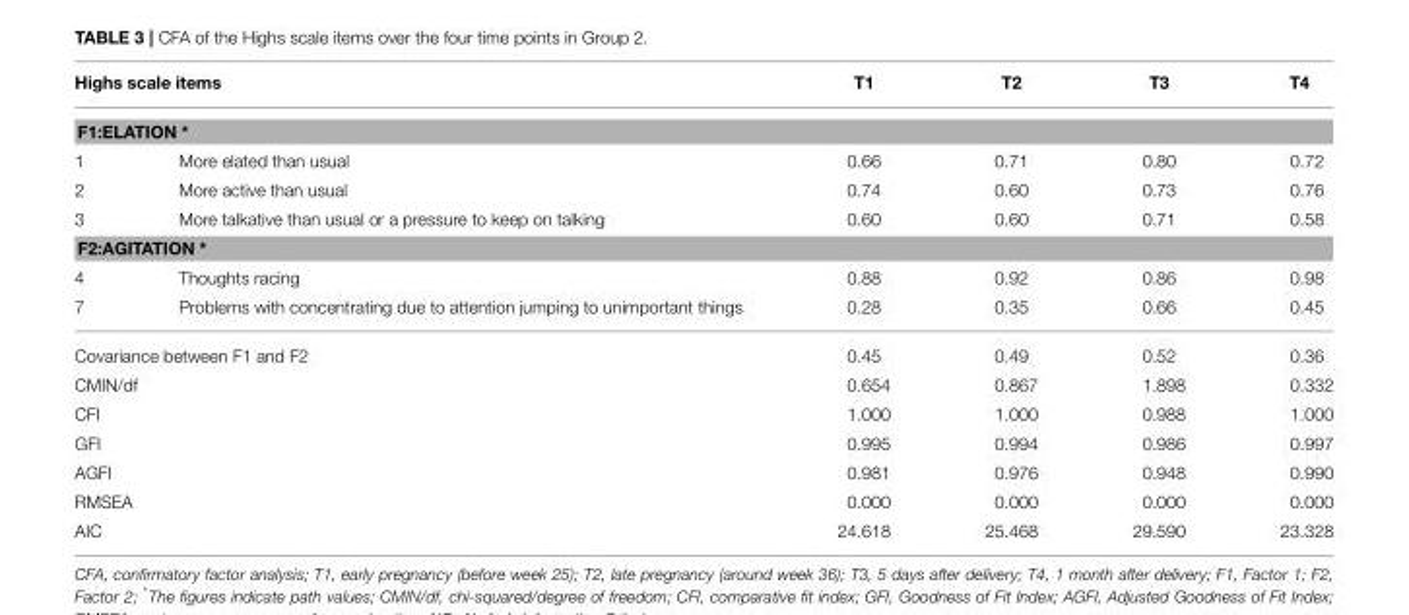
<table><thead><tr><td colspan="2">Highs scale items</td><td>T1</td><td>T2</td><td>T3</td><td>T4</td></tr><tr><td colspan="6">F1:ELATION *</td></tr><tr><td>1</td><td>More elated than usual</td><td>0.66</td><td>0.71</td><td>0.80</td><td>0.72</td></tr></thead><tbody><tr><td>2</td><td>More active than usual</td><td>0.74</td><td>0.60</td><td>0.73</td><td>0.76</td></tr><tr><td>3</td><td>More talkative than usual or a pressure to keep on talking</td><td>0.60</td><td>0.60</td><td>0.71</td><td>0.58</td></tr><tr><td colspan="6">F2:AGITATION *</td></tr><tr><td>4</td><td>Thoughts racing</td><td>0.88</td><td>0.92</td><td>0.86</td><td>0.98</td></tr><tr><td>7</td><td>Problems with concentrating due to attention jumping to unimportant things</td><td>0.28</td><td>0.35</td><td>0.66</td><td>0.45</td></tr><tr><td colspan="2">Covariance between F1 and F2</td><td>0.45</td><td>0.49</td><td>0.52</td><td>0.36</td></tr><tr><td colspan="2">CMIN/df</td><td>0.654</td><td>0.867</td><td>1.898</td><td>0.332</td></tr><tr><td colspan="2">CFI</td><td>1.000</td><td>1.000</td><td>0.988</td><td>1.000</td></tr><tr><td colspan="2">GFI</td><td>0.995</td><td>0.994</td><td>0.986</td><td>0.997</td></tr><tr><td colspan="2">AGFI</td><td>0.981</td><td>0.976</td><td>0.948</td><td>0.990</td></tr><tr><td colspan="2">RMSEA</td><td>0.000</td><td>0.000</td><td>0.000</td><td>0.000</td></tr><tr><td colspan="2">AIC</td><td>24.618</td><td>25.468</td><td>29.590</td><td>23.328</td></tr></tbody></table>